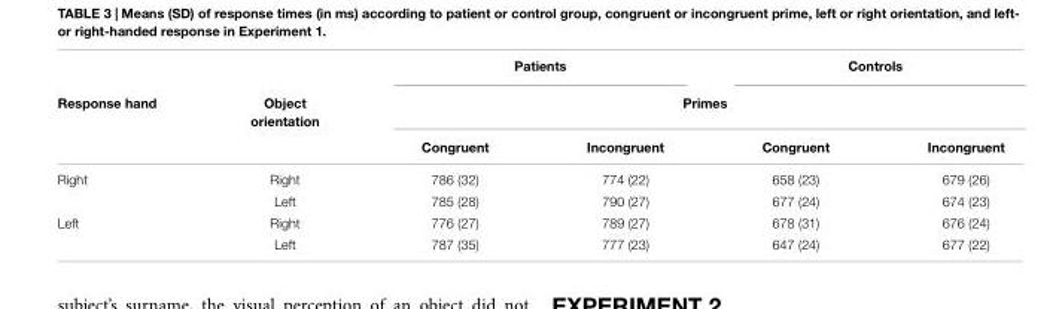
<table><thead><tr><td rowspan="3">Response hand</td><td rowspan="3">Object orientation</td><td colspan="2">Patients</td><td colspan="2">Controls</td></tr><tr><td colspan="4">Primes</td></tr><tr><td>Congruent</td><td>Incongruent</td><td>Congruent</td><td>Incongruent</td></tr></thead><tbody><tr><td rowspan="2">Right</td><td>Right</td><td>786 (32)</td><td>774 (22)</td><td>658 (23)</td><td>679 (26)</td></tr><tr><td>Left</td><td>785 (28)</td><td>790 (27)</td><td>677 (24)</td><td>674 (23)</td></tr><tr><td rowspan="2">Left</td><td>Right</td><td>776 (27)</td><td>789 (27)</td><td>678 (31)</td><td>676 (24)</td></tr><tr><td>Left</td><td>787 (35)</td><td>777 (23)</td><td>647 (24)</td><td>677 (22)</td></tr></tbody></table>